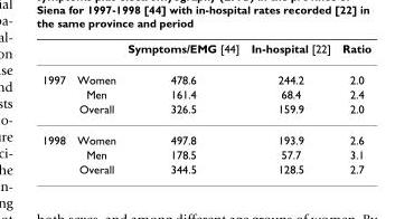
<table><thead><tr><td></td><td></td><td>Symptoms/EMG [44]</td><td>In-hospital [22]</td><td>Ratio</td></tr></thead><tbody><tr><td rowspan="3">1997</td><td>Women</td><td>478.6</td><td>244.2</td><td>2.0</td></tr><tr><td>Men</td><td>161.4</td><td>68.4</td><td>2.4</td></tr><tr><td>Overall</td><td>326.5</td><td>159.9</td><td>2.0</td></tr><tr><td rowspan="3">1998</td><td>Women</td><td>497.8</td><td>193.9</td><td>2.6</td></tr><tr><td>Men</td><td>178.5</td><td>57.7</td><td>3.1</td></tr><tr><td>Overall</td><td>344.5</td><td>128.5</td><td>2.7</td></tr></tbody></table>